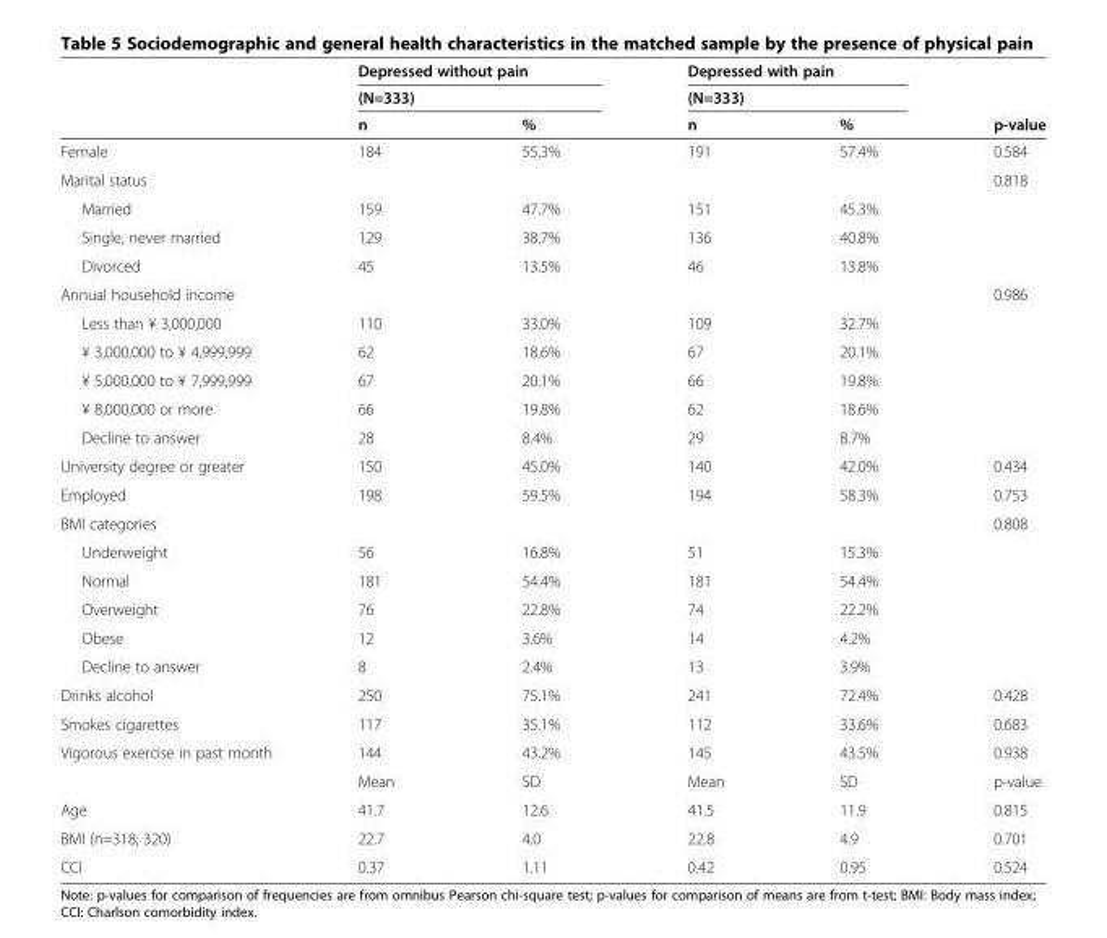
<table><thead><tr><td rowspan="3"></td><td rowspan="2" colspan="2">Depressed without pain (N=333)</td><td rowspan="2" colspan="2">Depressed with pain (N=333)</td><td rowspan="3">p-value</td></tr><tr></tr><tr><td>n</td><td>%</td><td>n</td><td>%</td></tr></thead><tbody><tr><td>Female</td><td>184</td><td>55.3%</td><td>191</td><td>57.4%</td><td>0.584</td></tr><tr><td>Marital status</td><td></td><td></td><td></td><td></td><td>0.818</td></tr><tr><td>Married</td><td>159</td><td>47.7%</td><td>151</td><td>45.3%</td><td></td></tr><tr><td>Single, never married</td><td>129</td><td>38.7%</td><td>136</td><td>40.8%</td><td></td></tr><tr><td>Divorced</td><td>45</td><td>13.5%</td><td>46</td><td>13.8%</td><td></td></tr><tr><td>Annual household income</td><td></td><td></td><td></td><td></td><td>0.986</td></tr><tr><td>Less than ¥ 3,000,000</td><td>110</td><td>33.0%</td><td>109</td><td>32.7%</td><td></td></tr><tr><td>¥ 3,000,000 to ¥ 4,999,999</td><td>62</td><td>18.6%</td><td>67</td><td>20.1%</td><td></td></tr><tr><td>¥ 5,000,000 to ¥ 7,999,999</td><td>67</td><td>20.1%</td><td>66</td><td>19.8%</td><td></td></tr><tr><td>¥ 8,000,000 or more</td><td>66</td><td>19.8%</td><td>62</td><td>18.6%</td><td></td></tr><tr><td>Decline to answer</td><td>28</td><td>8.4%</td><td>29</td><td>8.7%</td><td></td></tr><tr><td>University degree or greater</td><td>150</td><td>45.0%</td><td>140</td><td>42.0%</td><td>0.434</td></tr><tr><td>Employed</td><td>198</td><td>59.5%</td><td>194</td><td>58.3%</td><td>0.753</td></tr><tr><td>BMI categories</td><td></td><td></td><td></td><td></td><td>0.808</td></tr><tr><td>Underweight</td><td>56</td><td>16.8%</td><td>51</td><td>15.3%</td><td></td></tr><tr><td>Normal</td><td>181</td><td>54.4%</td><td>181</td><td>54.4%</td><td></td></tr><tr><td>Overweight</td><td>76</td><td>22.8%</td><td>74</td><td>22.2%</td><td></td></tr><tr><td>Obese</td><td>12</td><td>3.6%</td><td>14</td><td>4.2%</td><td></td></tr><tr><td>Decline to answer</td><td>8</td><td>2.4%</td><td>13</td><td>3.9%</td><td></td></tr><tr><td>Drinks alcohol</td><td>250</td><td>75.1%</td><td>241</td><td>72.4%</td><td>0.428</td></tr><tr><td>Smokes cigarettes</td><td>117</td><td>35.1%</td><td>112</td><td>33.6%</td><td>0.683</td></tr><tr><td rowspan="2">Vigorous exercise in past month</td><td>144</td><td>43.2%</td><td>145</td><td>43.5%</td><td>0.938</td></tr><tr><td>Mean</td><td>SD</td><td>Mean</td><td>SD</td><td>p-value</td></tr><tr><td>Age</td><td>41.7</td><td>12.6</td><td>41.5</td><td>11.9</td><td>0.815</td></tr><tr><td>BMI (n=318; 320)</td><td>22.7</td><td>4.0</td><td>22.8</td><td>4.9</td><td>0.701</td></tr><tr><td>CCI</td><td>0.37</td><td>1.11</td><td>0.42</td><td>0.95</td><td>0.524</td></tr></tbody></table>